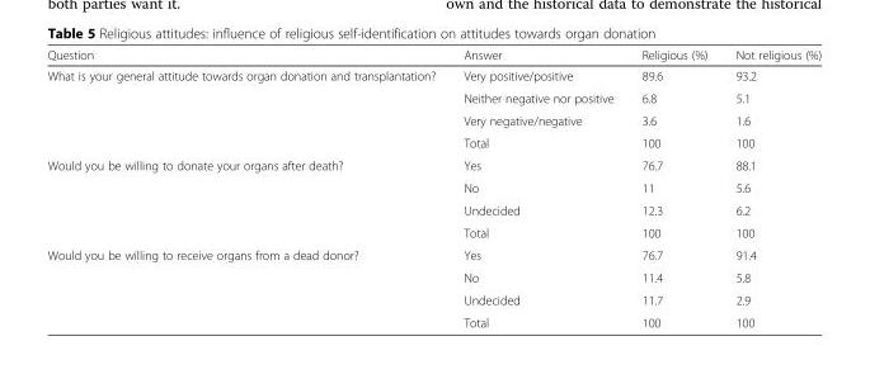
<table><thead><tr><td>Question</td><td>Answer</td><td>Religious (%)</td><td>Not religious (%)</td></tr></thead><tbody><tr><td rowspan="4">What is your general attitude towards organ donation and transplantation?</td><td>Very positive/positive</td><td>89.6</td><td>93.2</td></tr><tr><td>Neither negative nor positive</td><td>6.8</td><td>5.1</td></tr><tr><td>Very negative/negative</td><td>3.6</td><td>1.6</td></tr><tr><td>Total</td><td>100</td><td>100</td></tr><tr><td rowspan="4">Would you be willing to donate your organs after death?</td><td>Yes</td><td>76.7</td><td>88.1</td></tr><tr><td>No</td><td>11</td><td>5.6</td></tr><tr><td>Undecided</td><td>12.3</td><td>6.2</td></tr><tr><td>Total</td><td>100</td><td>100</td></tr><tr><td rowspan="4">Would you be willing to receive organs from a dead donor?</td><td>Yes</td><td>76.7</td><td>91.4</td></tr><tr><td>No</td><td>11.4</td><td>5.8</td></tr><tr><td>Undecided</td><td>11.7</td><td>2.9</td></tr><tr><td>Total</td><td>100</td><td>100</td></tr></tbody></table>